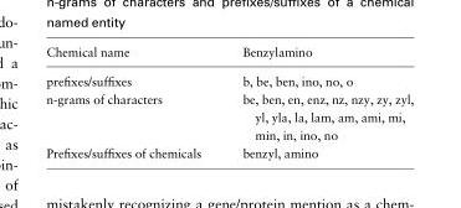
<table><thead><tr><td>Chemical name</td><td>Benzylamino</td></tr></thead><tbody><tr><td>prefixes/suffixes</td><td>b, be, ben, ino, no, o</td></tr><tr><td>n-grams of characters</td><td>be, ben, en, enz, nz, nzy, zy, zyl, yl, yla, la, lam, am, ami, mi, min, in, ino, no</td></tr><tr><td>Prefixes/suffixes of chemicals</td><td>benzyl, amino</td></tr></tbody></table>